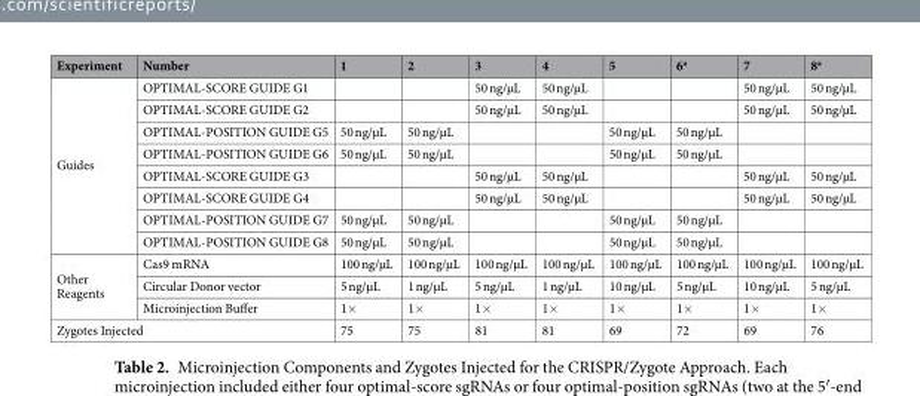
<table><thead><tr><td>Experiment</td><td>Number</td><td>1</td><td>2</td><td>3</td><td>4</td><td>5</td><td>6<sup>a</sup></td><td>7</td><td>8<sup>a</sup></td></tr></thead><tbody><tr><td rowspan="8">Guides</td><td>OPTIMAL-SCORE GUIDE G1</td><td></td><td></td><td>50 ng/µL</td><td>50 ng/µL</td><td></td><td></td><td>50 ng/µL</td><td>50 ng/µL</td></tr><tr><td>OPTIMAL-SCORE GUIDE G2</td><td></td><td></td><td>50 ng/µL</td><td>50 ng/µL</td><td></td><td></td><td>50 ng/µL</td><td>50 ng/µL</td></tr><tr><td>OPTIMAL-POSITION GUIDE G5</td><td>50 ng/µL</td><td>50 ng/µL</td><td></td><td></td><td>50 ng/µL</td><td>50 ng/µL</td><td></td><td></td></tr><tr><td>OPTIMAL-POSITION GUIDE G6</td><td>50 ng/µL</td><td>50 ng/µL</td><td></td><td></td><td>50 ng/µL</td><td>50 ng/µL</td><td></td><td></td></tr><tr><td>OPTIMAL-SCORE GUIDE G3</td><td></td><td></td><td>50 ng/µL</td><td>50 ng/µL</td><td></td><td></td><td>50 ng/µL</td><td>50 ng/µL</td></tr><tr><td>OPTIMAL-SCORE GUIDE G4</td><td></td><td></td><td>50 ng/µL</td><td>50 ng/µL</td><td></td><td></td><td>50 ng/µL</td><td>50 ng/µL</td></tr><tr><td>OPTIMAL-POSITION GUIDE G7</td><td>50 ng/µL</td><td>50 ng/µL</td><td></td><td></td><td>50 ng/µL</td><td>50 ng/µL</td><td></td><td></td></tr><tr><td>OPTIMAL-POSITION GUIDE G8</td><td>50 ng/µL</td><td>50 ng/µL</td><td></td><td></td><td>50 ng/µL</td><td>50 ng/µL</td><td></td><td></td></tr><tr><td rowspan="3">Other Reagents</td><td>Cas9 mRNA</td><td>100 ng/µL</td><td>100 ng/µL</td><td>100 ng/µL</td><td>100 ng/µL</td><td>100 ng/µL</td><td>100 ng/µL</td><td>100 ng/µL</td><td>100 ng/µL</td></tr><tr><td>Circular Donor vector</td><td>5 ng/µL</td><td>1 ng/µL</td><td>5 ng/µL</td><td>1 ng/µL</td><td>10 ng/µL</td><td>5 ng/µL</td><td>10 ng/µL</td><td>5 ng/µL</td></tr><tr><td>Microinjection Buffer</td><td>1×</td><td>1×</td><td>1×</td><td>1×</td><td>1×</td><td>1×</td><td>1×</td><td>1×</td></tr><tr><td colspan="2">Zygotes Injected</td><td>75</td><td>75</td><td>81</td><td>81</td><td>69</td><td>72</td><td>69</td><td>76</td></tr></tbody></table>